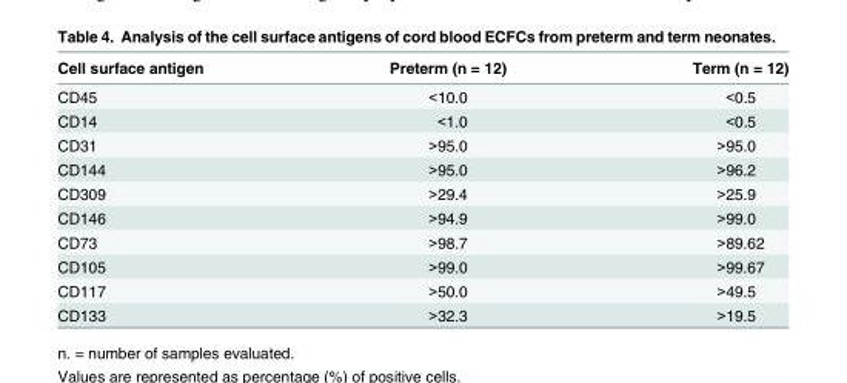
<table><thead><tr><td>Cell surface antigen</td><td>Preterm (n = 12)</td><td>Term (n = 12)</td></tr></thead><tbody><tr><td>CD45</td><td>&lt;10.0</td><td>&lt;0.5</td></tr><tr><td>CD14</td><td>&lt;1.0</td><td>&lt;0.5</td></tr><tr><td>CD31</td><td>&gt;95.0</td><td>&gt;95.0</td></tr><tr><td>CD144</td><td>&gt;95.0</td><td>&gt;96.2</td></tr><tr><td>CD309</td><td>&gt;29.4</td><td>&gt;25.9</td></tr><tr><td>CD146</td><td>&gt;94.9</td><td>&gt;99.0</td></tr><tr><td>CD73</td><td>&gt;98.7</td><td>&gt;89.62</td></tr><tr><td>CD105</td><td>&gt;99.0</td><td>&gt;99.67</td></tr><tr><td>CD117</td><td>&gt;50.0</td><td>&gt;49.5</td></tr><tr><td>CD133</td><td>&gt;32.3</td><td>&gt;19.5</td></tr></tbody></table>